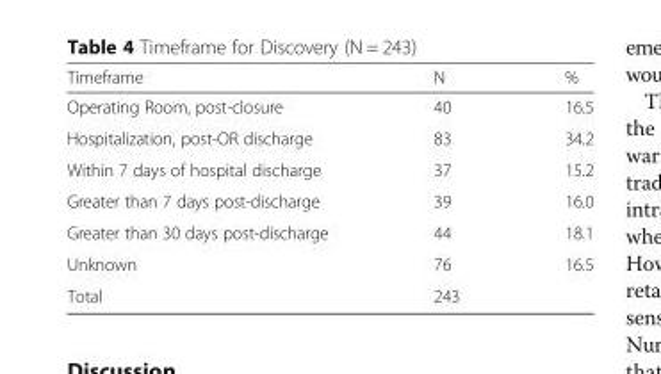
<table><thead><tr><td>Timeframe</td><td>N</td><td>%</td></tr></thead><tbody><tr><td>Operating Room, post-closure</td><td>40</td><td>16.5</td></tr><tr><td>Hospitalization, post-OR discharge</td><td>83</td><td>34.2</td></tr><tr><td>Within 7 days of hospital discharge</td><td>37</td><td>15.2</td></tr><tr><td>Greater than 7 days post-discharge</td><td>39</td><td>16.0</td></tr><tr><td>Greater than 30 days post-discharge</td><td>44</td><td>18.1</td></tr><tr><td>Unknown</td><td>76</td><td>16.5</td></tr><tr><td>Total</td><td>243</td><td></td></tr></tbody></table>